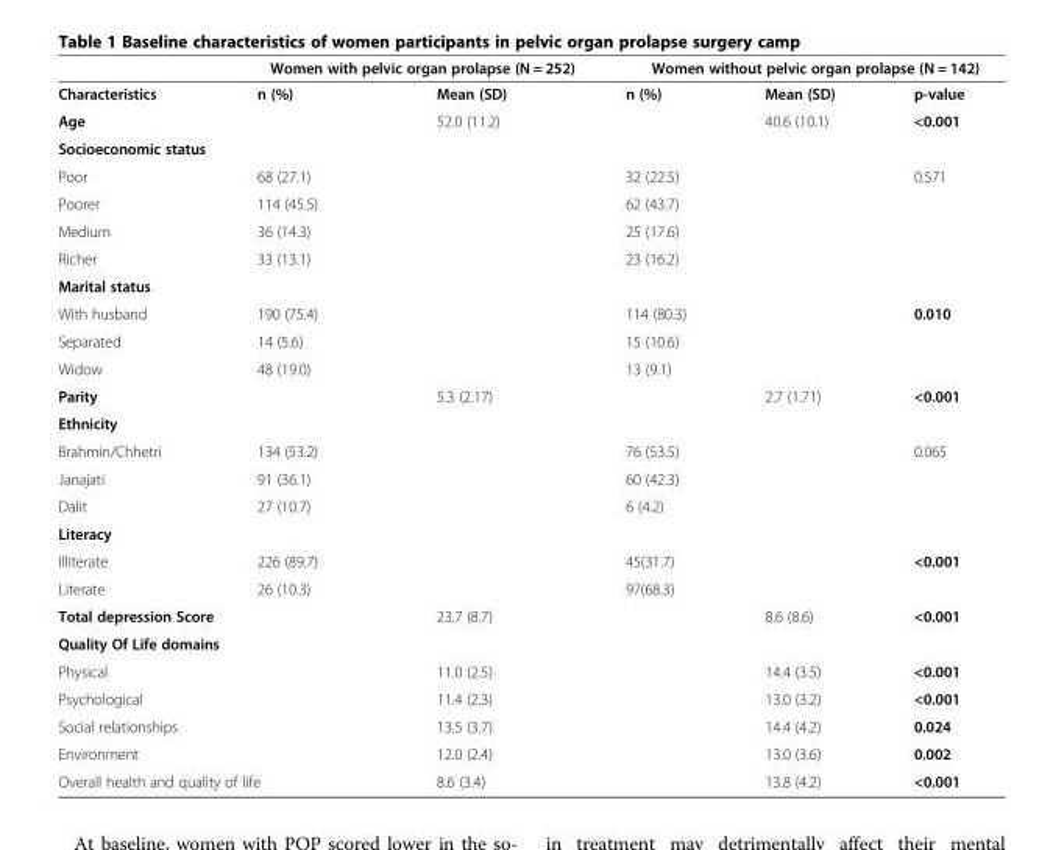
<table><thead><tr><td rowspan="2">Characteristics</td><td colspan="2">Women with pelvic organ prolapse (N = 252)</td><td colspan="3">Women without pelvic organ prolapse (N = 142)</td></tr><tr><td>n (%)</td><td>Mean (SD)</td><td>n (%)</td><td>Mean (SD)</td><td>p-value</td></tr></thead><tbody><tr><td>Age</td><td></td><td>52.0 (11.2)</td><td></td><td>40.6 (10.1)</td><td>&lt;0.001</td></tr><tr><td colspan="6">Socioeconomic status</td></tr><tr><td>Poor</td><td>68 (27.1)</td><td></td><td>32 (22.5)</td><td></td><td>0.571</td></tr><tr><td>Poorer</td><td>114 (45.5)</td><td></td><td>62 (43.7)</td><td></td><td></td></tr><tr><td>Medium</td><td>36 (14.3)</td><td></td><td>25 (17.6)</td><td></td><td></td></tr><tr><td>Richer</td><td>33 (13.1)</td><td></td><td>23 (16.2)</td><td></td><td></td></tr><tr><td colspan="6">Marital status</td></tr><tr><td>With husband</td><td>190 (75.4)</td><td></td><td>114 (80.3)</td><td></td><td>0.010</td></tr><tr><td>Separated</td><td>14 (5.6)</td><td></td><td>15 (10.6)</td><td></td><td></td></tr><tr><td>Widow</td><td>48 (19.0)</td><td></td><td>13 (9.1)</td><td></td><td></td></tr><tr><td>Parity</td><td></td><td>5.3 (2.17)</td><td></td><td>2.7 (1.71)</td><td>&lt;0.001</td></tr><tr><td colspan="6">Ethnicity</td></tr><tr><td>Brahmin/Chhetri</td><td>134 (53.2)</td><td></td><td>76 (53.5)</td><td></td><td>0.065</td></tr><tr><td>Janajati</td><td>91 (36.1)</td><td></td><td>60 (42.3)</td><td></td><td></td></tr><tr><td>Dalit</td><td>27 (10.7)</td><td></td><td>6 (4.2)</td><td></td><td></td></tr><tr><td colspan="6">Literacy</td></tr><tr><td>Illiterate</td><td>226 (89.7)</td><td></td><td>45(31.7)</td><td></td><td>&lt;0.001</td></tr><tr><td>Literate</td><td>26 (10.3)</td><td></td><td>97(68.3)</td><td></td><td></td></tr><tr><td colspan="2">Total depression Score</td><td>23.7 (8.7)</td><td></td><td>8.6 (8.6)</td><td>&lt;0.001</td></tr><tr><td colspan="6">Quality Of Life domains</td></tr><tr><td>Physical</td><td></td><td>11.0 (2.5)</td><td></td><td>14.4 (3.5)</td><td>&lt;0.001</td></tr><tr><td>Psychological</td><td></td><td>11.4 (2.3)</td><td></td><td>13.0 (3.2)</td><td>&lt;0.001</td></tr><tr><td colspan="2">Social relationships</td><td>13.5 (3.7)</td><td></td><td>14.4 (4.2)</td><td>0.024</td></tr><tr><td colspan="2">Environment</td><td>12.0 (2.4)</td><td></td><td>13.0 (3.6)</td><td>0.002</td></tr><tr><td colspan="2">Overall health and quality of life</td><td>8.6 (3.4)</td><td></td><td>13.8 (4.2)</td><td>&lt;0.001</td></tr></tbody></table>